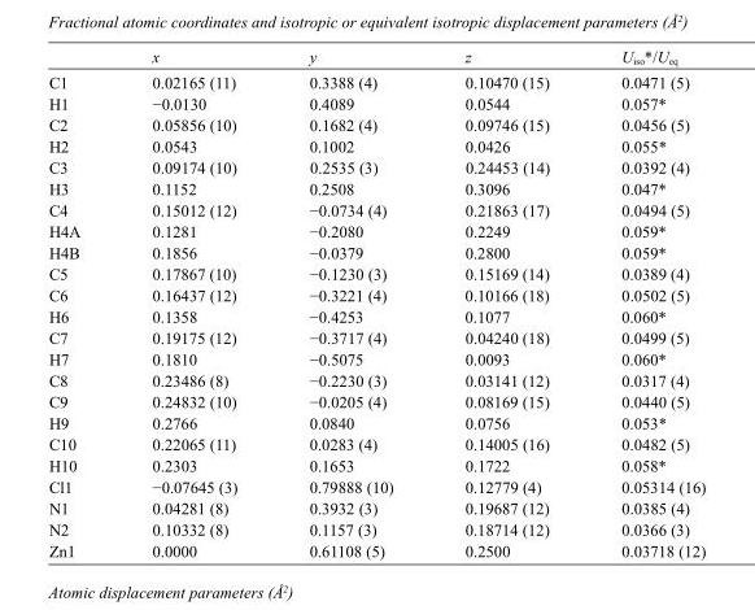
<table><thead><tr><td></td><td>x</td><td>y</td><td>z</td><td>U<sub>iso</sub>*/U<sub>eq</sub></td></tr></thead><tbody><tr><td>C1</td><td>0.02165 (11)</td><td>0.3388 (4)</td><td>0.10470 (15)</td><td>0.0471 (5)</td></tr><tr><td>H1</td><td>−0.0130</td><td>0.4089</td><td>0.0544</td><td>0.057*</td></tr><tr><td>C2</td><td>0.05856 (10)</td><td>0.1682 (4)</td><td>0.09746 (15)</td><td>0.0456 (5)</td></tr><tr><td>H2</td><td>0.0543</td><td>0.1002</td><td>0.0426</td><td>0.055*</td></tr><tr><td>C3</td><td>0.09174 (10)</td><td>0.2535 (3)</td><td>0.24453 (14)</td><td>0.0392 (4)</td></tr><tr><td>H3</td><td>0.1152</td><td>0.2508</td><td>0.3096</td><td>0.047*</td></tr><tr><td>C4</td><td>0.15012 (12)</td><td>−0.0734 (4)</td><td>0.21863 (17)</td><td>0.0494 (5)</td></tr><tr><td>H4A</td><td>0.1281</td><td>−0.2080</td><td>0.2249</td><td>0.059*</td></tr><tr><td>H4B</td><td>0.1856</td><td>−0.0379</td><td>0.2800</td><td>0.059*</td></tr><tr><td>C5</td><td>0.17867 (10)</td><td>−0.1230 (3)</td><td>0.15169 (14)</td><td>0.0389 (4)</td></tr><tr><td>C6</td><td>0.16437 (12)</td><td>−0.3221 (4)</td><td>0.10166 (18)</td><td>0.0502 (5)</td></tr><tr><td>H6</td><td>0.1358</td><td>−0.4253</td><td>0.1077</td><td>0.060*</td></tr><tr><td>C7</td><td>0.19175 (12)</td><td>−0.3717 (4)</td><td>0.04240 (18)</td><td>0.0499 (5)</td></tr><tr><td>H7</td><td>0.1810</td><td>−0.5075</td><td>0.0093</td><td>0.060*</td></tr><tr><td>C8</td><td>0.23486 (8)</td><td>−0.2230 (3)</td><td>0.03141 (12)</td><td>0.0317 (4)</td></tr><tr><td>C9</td><td>0.24832 (10)</td><td>−0.0205 (4)</td><td>0.08169 (15)</td><td>0.0440 (5)</td></tr><tr><td>H9</td><td>0.2766</td><td>0.0840</td><td>0.0756</td><td>0.053*</td></tr><tr><td>C10</td><td>0.22065 (11)</td><td>0.0283 (4)</td><td>0.14005 (16)</td><td>0.0482 (5)</td></tr><tr><td>H10</td><td>0.2303</td><td>0.1653</td><td>0.1722</td><td>0.058*</td></tr><tr><td>Cl1</td><td>−0.07645 (3)</td><td>0.79888 (10)</td><td>0.12779 (4)</td><td>0.05314 (16)</td></tr><tr><td>N1</td><td>0.04281 (8)</td><td>0.3932 (3)</td><td>0.19687 (12)</td><td>0.0385 (4)</td></tr><tr><td>N2</td><td>0.10332 (8)</td><td>0.1157 (3)</td><td>0.18714 (12)</td><td>0.0366 (3)</td></tr><tr><td>Zn1</td><td>0.0000</td><td>0.61108 (5)</td><td>0.2500</td><td>0.03718 (12)</td></tr></tbody></table>